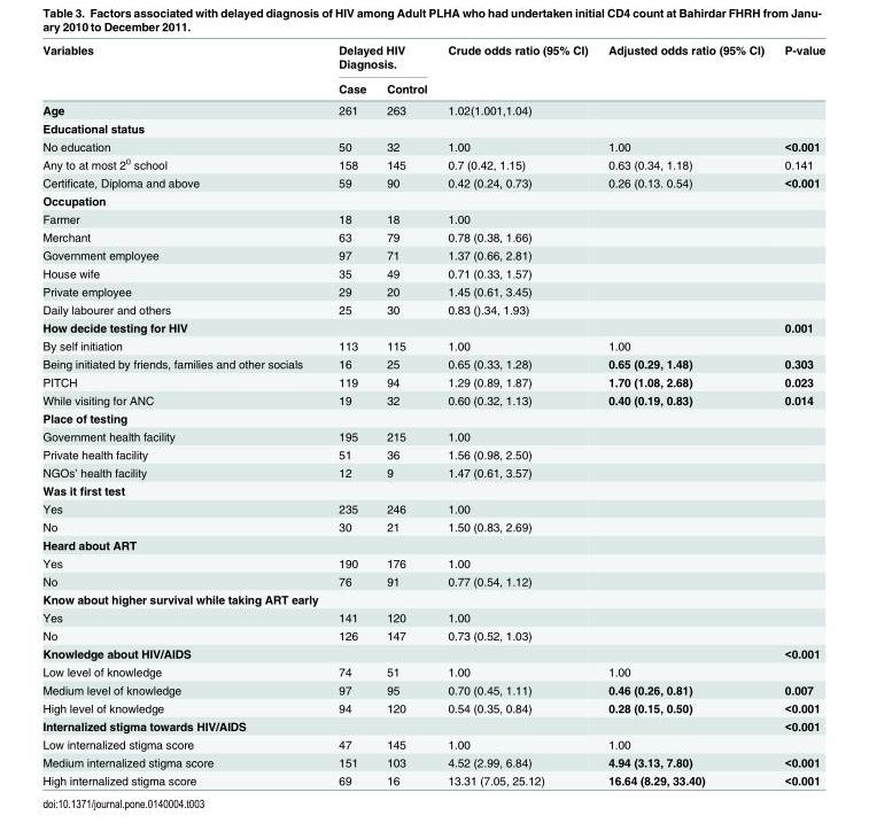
<table><thead><tr><td rowspan="2">Variables</td><td colspan="2">Delayed HIV Diagnosis.</td><td rowspan="2">Crude odds ratio (95% CI)</td><td rowspan="2">Adjusted odds ratio (95% CI)</td><td rowspan="2">P-value</td></tr><tr><td>Case</td><td>Control</td></tr></thead><tbody><tr><td>Age</td><td>261</td><td>263</td><td>1.02(1.001,1.04)</td><td></td><td></td></tr><tr><td colspan="6">Educational status</td></tr><tr><td>No education</td><td>50</td><td>32</td><td>1.00</td><td>1.00</td><td>&lt;0.001</td></tr><tr><td>Any to at most 2<sup>0</sup> school</td><td>158</td><td>145</td><td>0.7 (0.42, 1.15)</td><td>0.63 (0.34, 1.18)</td><td>0.141</td></tr><tr><td>Certificate, Diploma and above</td><td>59</td><td>90</td><td>0.42 (0.24, 0.73)</td><td>0.26 (0.13. 0.54)</td><td>&lt;0.001</td></tr><tr><td colspan="6">Occupation</td></tr><tr><td>Farmer</td><td>18</td><td>18</td><td>1.00</td><td></td><td></td></tr><tr><td>Merchant</td><td>63</td><td>79</td><td>0.78 (0.38, 1.66)</td><td></td><td></td></tr><tr><td>Government employee</td><td>97</td><td>71</td><td>1.37 (0.66, 2.81)</td><td></td><td></td></tr><tr><td>House wife</td><td>35</td><td>49</td><td>0.71 (0.33, 1.57)</td><td></td><td></td></tr><tr><td>Private employee</td><td>29</td><td>20</td><td>1.45 (0.61, 3.45)</td><td></td><td></td></tr><tr><td>Daily labourer and others</td><td>25</td><td>30</td><td>0.83 ().34, 1.93)</td><td></td><td></td></tr><tr><td>How decide testing for HIV</td><td></td><td></td><td></td><td></td><td>0.001</td></tr><tr><td>By self initiation</td><td>113</td><td>115</td><td>1.00</td><td>1.00</td><td></td></tr><tr><td>Being initiated by friends, families and other socials</td><td>16</td><td>25</td><td>0.65 (0.33, 1.28)</td><td>0.65 (0.29, 1.48)</td><td>0.303</td></tr><tr><td>PITCH</td><td>119</td><td>94</td><td>1.29 (0.89, 1.87)</td><td>1.70 (1.08, 2.68)</td><td>0.023</td></tr><tr><td>While visiting for ANC</td><td>19</td><td>32</td><td>0.60 (0.32, 1.13)</td><td>0.40 (0.19, 0.83)</td><td>0.014</td></tr><tr><td colspan="6">Place of testing</td></tr><tr><td>Government health facility</td><td>195</td><td>215</td><td>1.00</td><td></td><td></td></tr><tr><td>Private health facility</td><td>51</td><td>36</td><td>1.56 (0.98, 2.50)</td><td></td><td></td></tr><tr><td>NGOs’ health facility</td><td>12</td><td>9</td><td>1.47 (0.61, 3.57)</td><td></td><td></td></tr><tr><td colspan="6">Was it first test</td></tr><tr><td>Yes</td><td>235</td><td>246</td><td>1.00</td><td></td><td></td></tr><tr><td>No</td><td>30</td><td>21</td><td>1.50 (0.83, 2.69)</td><td></td><td></td></tr><tr><td colspan="6">Heard about ART</td></tr><tr><td>Yes</td><td>190</td><td>176</td><td>1.00</td><td></td><td></td></tr><tr><td>No</td><td>76</td><td>91</td><td>0.77 (0.54, 1.12)</td><td></td><td></td></tr><tr><td colspan="6">Know about higher survival while taking ART early</td></tr><tr><td>Yes</td><td>141</td><td>120</td><td>1.00</td><td></td><td></td></tr><tr><td>No</td><td>126</td><td>147</td><td>0.73 (0.52, 1.03)</td><td></td><td></td></tr><tr><td>Knowledge about HIV/AIDS</td><td></td><td></td><td></td><td></td><td>&lt;0.001</td></tr><tr><td>Low level of knowledge</td><td>74</td><td>51</td><td>1.00</td><td>1.00</td><td></td></tr><tr><td>Medium level of knowledge</td><td>97</td><td>95</td><td>0.70 (0.45, 1.11)</td><td>0.46 (0.26, 0.81)</td><td>0.007</td></tr><tr><td>High level of knowledge</td><td>94</td><td>120</td><td>0.54 (0.35, 0.84)</td><td>0.28 (0.15, 0.50)</td><td>&lt;0.001</td></tr><tr><td>Internalized stigma towards HIV/AIDS</td><td></td><td></td><td></td><td></td><td>&lt;0.001</td></tr><tr><td>Low internalized stigma score</td><td>47</td><td>145</td><td>1.00</td><td>1.00</td><td></td></tr><tr><td>Medium internalized stigma score</td><td>151</td><td>103</td><td>4.52 (2.99, 6.84)</td><td>4.94 (3.13, 7.80)</td><td>&lt;0.001</td></tr><tr><td>High internalized stigma score</td><td>69</td><td>16</td><td>13.31 (7.05, 25.12)</td><td>16.64 (8.29, 33.40)</td><td>&lt;0.001</td></tr></tbody></table>